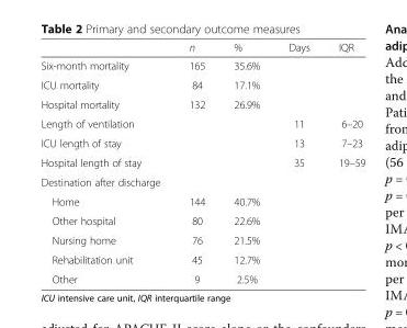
<table><thead><tr><td></td><td>n</td><td>%</td><td>Days</td><td>IQR</td></tr></thead><tbody><tr><td>Six-month mortality</td><td>165</td><td>35.6%</td><td></td><td></td></tr><tr><td>ICU mortality</td><td>84</td><td>17.1%</td><td></td><td></td></tr><tr><td>Hospital mortality</td><td>132</td><td>26.9%</td><td></td><td></td></tr><tr><td>Length of ventilation</td><td></td><td></td><td>11</td><td>6–20</td></tr><tr><td>ICU length of stay</td><td></td><td></td><td>13</td><td>7–23</td></tr><tr><td>Hospital length of stay</td><td></td><td></td><td>35</td><td>19–59</td></tr><tr><td colspan="5">Destination after discharge</td></tr><tr><td>Home</td><td>144</td><td>40.7%</td><td></td><td></td></tr><tr><td>Other hospital</td><td>80</td><td>22.6%</td><td></td><td></td></tr><tr><td>Nursing home</td><td>76</td><td>21.5%</td><td></td><td></td></tr><tr><td>Rehabilitation unit</td><td>45</td><td>12.7%</td><td></td><td></td></tr><tr><td>Other</td><td>9</td><td>2.5%</td><td></td><td></td></tr></tbody></table>